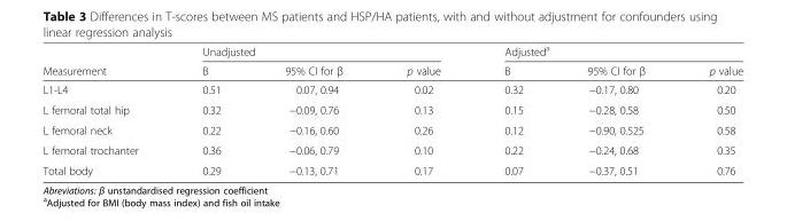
<table><thead><tr><td rowspan="2">Measurement</td><td colspan="3">Unadjusted</td><td colspan="3">Adjusted<sup>a</sup></td></tr><tr><td>B</td><td>95% CI for β</td><td>p value</td><td>B</td><td>95% CI for β</td><td>p value</td></tr></thead><tbody><tr><td>L1-L4</td><td>0.51</td><td>0.07, 0.94</td><td>0.02</td><td>0.32</td><td>−0.17, 0.80</td><td>0.20</td></tr><tr><td>L femoral total hip</td><td>0.32</td><td>−0.09, 0.76</td><td>0.13</td><td>0.15</td><td>−0.28, 0.58</td><td>0.50</td></tr><tr><td>L femoral neck</td><td>0.22</td><td>−0.16, 0.60</td><td>0.26</td><td>0.12</td><td>−0.90, 0.525</td><td>0.58</td></tr><tr><td>L femoral trochanter</td><td>0.36</td><td>−0.06, 0.79</td><td>0.10</td><td>0.22</td><td>−0.24, 0.68</td><td>0.35</td></tr><tr><td>Total body</td><td>0.29</td><td>−0.13, 0.71</td><td>0.17</td><td>0.07</td><td>−0.37, 0.51</td><td>0.76</td></tr></tbody></table>